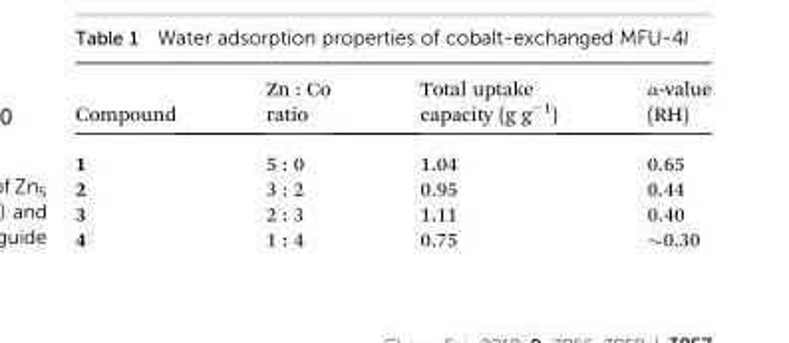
<table><thead><tr><td>Compound</td><td>Zn : Co ratio</td><td>Total uptake capacity (g g<sup>–1</sup>)</td><td>α-value (RH)</td></tr></thead><tbody><tr><td>1</td><td>5 : 0</td><td>1.04</td><td>0.65</td></tr><tr><td>2</td><td>3 : 2</td><td>0.95</td><td>0.44</td></tr><tr><td>3</td><td>2 : 3</td><td>1.11</td><td>0.40</td></tr><tr><td>4</td><td>1 : 4</td><td>0.75</td><td>∼0.30</td></tr></tbody></table>